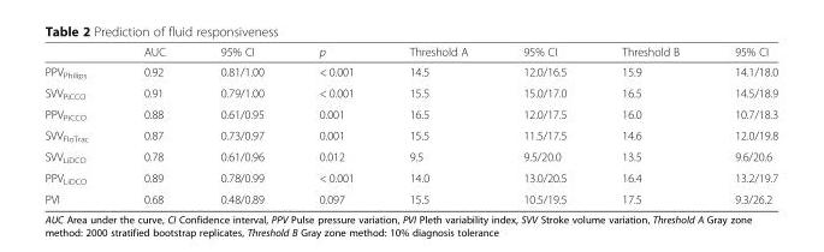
<table><thead><tr><td></td><td>AUC</td><td>95% CI</td><td>p</td><td>Threshold A</td><td>95% CI</td><td>Threshold B</td><td>95% CI</td></tr></thead><tbody><tr><td>PPV<sub>Philips</sub></td><td>0.92</td><td>0.81/1.00</td><td>&lt; 0.001</td><td>14.5</td><td>12.0/16.5</td><td>15.9</td><td>14.1/18.0</td></tr><tr><td>SVV<sub>PiCCO</sub></td><td>0.91</td><td>0.79/1.00</td><td>&lt; 0.001</td><td>15.5</td><td>15.0/17.0</td><td>16.5</td><td>14.5/18.9</td></tr><tr><td>PPV<sub>PiCCO</sub></td><td>0.88</td><td>0.61/0.95</td><td>0.001</td><td>16.5</td><td>12.0/17.5</td><td>16.0</td><td>10.7/18.3</td></tr><tr><td>SVV<sub>FloTrac</sub></td><td>0.87</td><td>0.73/0.97</td><td>0.001</td><td>15.5</td><td>11.5/17.5</td><td>14.6</td><td>12.0/19.8</td></tr><tr><td>SVV<sub>LiDCO</sub></td><td>0.78</td><td>0.61/0.96</td><td>0.012</td><td>9.5</td><td>9.5/20.0</td><td>13.5</td><td>9.6/20.6</td></tr><tr><td>PPV<sub>LiDCO</sub></td><td>0.89</td><td>0.78/0.99</td><td>&lt; 0.001</td><td>14.0</td><td>13.0/20.5</td><td>16.4</td><td>13.2/19.7</td></tr><tr><td>PVI</td><td>0.68</td><td>0.48/0.89</td><td>0.097</td><td>15.5</td><td>10.5/19.5</td><td>17.5</td><td>9.3/26.2</td></tr></tbody></table>